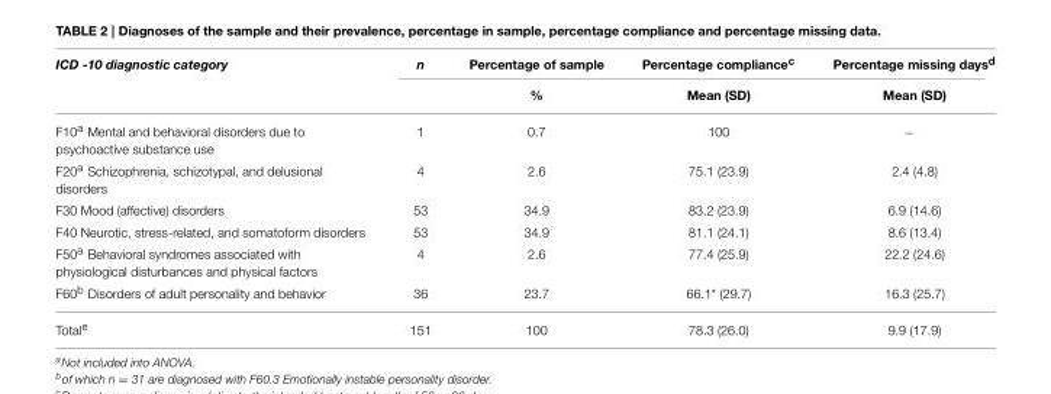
<table><thead><tr><td rowspan="2">ICD -10 diagnostic category</td><td rowspan="2">n</td><td rowspan="2">Percentage of sample %</td><td rowspan="2">Percentage compliance<sup>c</sup> Mean (SD)</td><td rowspan="2">Percentage missing days<sup>d</sup> Mean (SD)</td></tr><tr></tr></thead><tbody><tr><td>F10<sup>a</sup> Mental and behavioral disorders due to psychoactive substance use</td><td>1</td><td>0.7</td><td>100</td><td>−</td></tr><tr><td>F20<sup>a</sup> Schizophrenia, schizotypal, and delusional disorders</td><td>4</td><td>2.6</td><td>75.1 (23.9)</td><td>2.4 (4.8)</td></tr><tr><td>F30 Mood (affective) disorders</td><td>53</td><td>34.9</td><td>83.2 (23.9)</td><td>6.9 (14.6)</td></tr><tr><td>F40 Neurotic, stress-related, and somatoform disorders</td><td>53</td><td>34.9</td><td>81.1 (24.1)</td><td>8.6 (13.4)</td></tr><tr><td>F50<sup>a</sup> Behavioral syndromes associated with physiological disturbances and physical factors</td><td>4</td><td>2.6</td><td>77.4 (25.9)</td><td>22.2 (24.6)</td></tr><tr><td>F60<sup>b</sup> Disorders of adult personality and behavior</td><td>36</td><td>23.7</td><td>66.1* (29.7)</td><td>16.3 (25.7)</td></tr><tr><td>Total<sup>e</sup></td><td>151</td><td>100</td><td>78.3 (26.0)</td><td>9.9 (17.9)</td></tr></tbody></table>